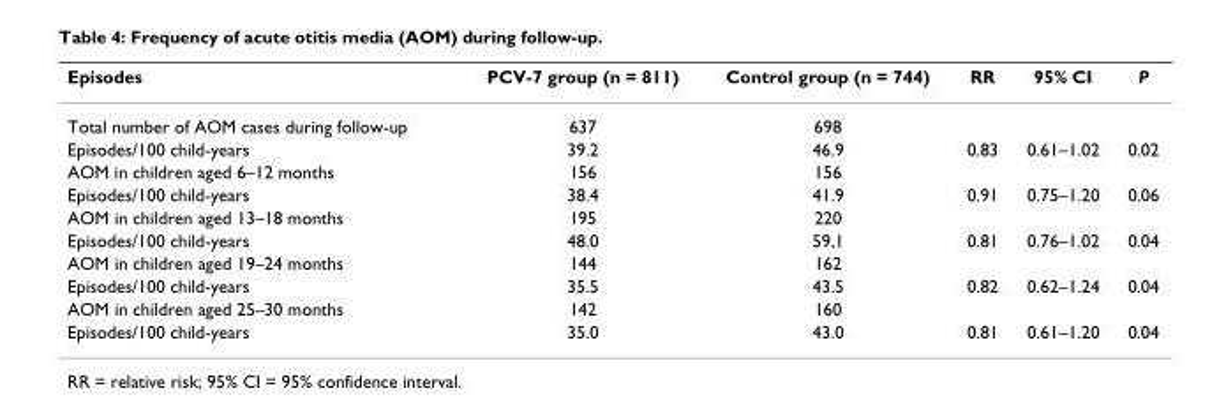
<table><thead><tr><td>Episodes</td><td>PCV-7 group (n = 811)</td><td>Control group (n = 744)</td><td>RR</td><td>95% CI</td><td>P</td></tr></thead><tbody><tr><td>Total number of AOM cases during follow-up</td><td>637</td><td>698</td><td></td><td></td><td></td></tr><tr><td>Episodes/100 child-years</td><td>39.2</td><td>46.9</td><td>0.83</td><td>0.61–1.02</td><td>0.02</td></tr><tr><td>AOM in children aged 6–12 months</td><td>156</td><td>156</td><td></td><td></td><td></td></tr><tr><td>Episodes/100 child-years</td><td>38.4</td><td>41.9</td><td>0.91</td><td>0.75–1.20</td><td>0.06</td></tr><tr><td>AOM in children aged 13–18 months</td><td>195</td><td>220</td><td></td><td></td><td></td></tr><tr><td>Episodes/100 child-years</td><td>48.0</td><td>59,1</td><td>0.81</td><td>0.76–1.02</td><td>0.04</td></tr><tr><td>AOM in children aged 19–24 months</td><td>144</td><td>162</td><td></td><td></td><td></td></tr><tr><td>Episodes/100 child-years</td><td>35.5</td><td>43.5</td><td>0.82</td><td>0.62–1.24</td><td>0.04</td></tr><tr><td>AOM in children aged 25–30 months</td><td>142</td><td>160</td><td></td><td></td><td></td></tr><tr><td>Episodes/100 child-years</td><td>35.0</td><td>43.0</td><td>0.81</td><td>0.61–1.20</td><td>0.04</td></tr></tbody></table>